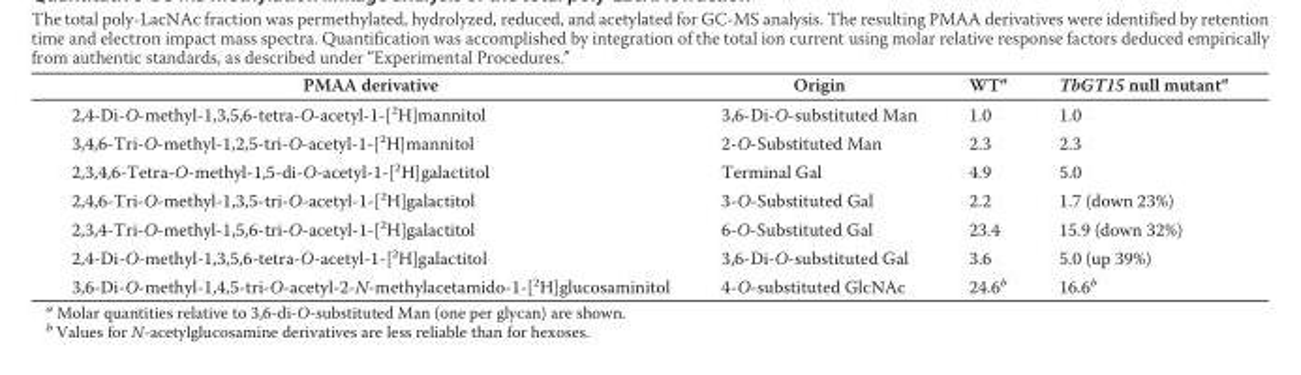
<table><thead><tr><td>PMAA derivative</td><td>Origin</td><td>WT<sup>a</sup></td><td>TbGT15 null mutant<sup>a</sup></td></tr></thead><tbody><tr><td>2,4-Di-O-methyl-1,3,5,6-tetra-O-acetyl-1-[<sup>2</sup>H]mannitol</td><td>3,6-Di-O-substituted Man</td><td>1.0</td><td>1.0</td></tr><tr><td>3,4,6-Tri-O-methyl-1,2,5-tri-O-acetyl-1-[<sup>2</sup>H]mannitol</td><td>2-O-Substituted Man</td><td>2.3</td><td>2.3</td></tr><tr><td>2,3,4,6-Tetra-O-methyl-1,5-di-O-acetyl-1-[<sup>2</sup>H]galactitol</td><td>Terminal Gal</td><td>4.9</td><td>5.0</td></tr><tr><td>2,4,6-Tri-O-methyl-1,3,5-tri-O-acetyl-1-[<sup>2</sup>H]galactitol</td><td>3-O-Substituted Gal</td><td>2.2</td><td>1.7 (down 23%)</td></tr><tr><td>2,3,4-Tri-O-methyl-1,5,6-tri-O-acetyl-1-[<sup>2</sup>H]galactitol</td><td>6-O-Substituted Gal</td><td>23.4</td><td>15.9 (down 32%)</td></tr><tr><td>2,4-Di-O-methyl-1,3,5,6-tetra-O-acetyl-1-[<sup>2</sup>H]galactitol</td><td>3,6-Di-O-substituted Gal</td><td>3.6</td><td>5.0 (up 39%)</td></tr><tr><td>3,6-Di-O-methyl-1,4,5-tri-O-acetyl-2-N-methylacetamido-1-[<sup>2</sup>H]glucosaminitol</td><td>4-O-substituted GlcNAc</td><td>24.6<sup>b</sup></td><td>16.6<sup>b</sup></td></tr></tbody></table>